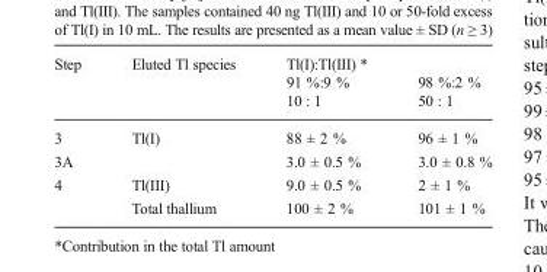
<table><thead><tr><td rowspan="3">Step</td><td rowspan="3">Eluted Tl species</td><td rowspan="3">Tl(I):Tl(III) * 91 %:9 % 10 : 1</td><td rowspan="3">98 %:2 % 50 : 1</td></tr><tr></tr><tr></tr></thead><tbody><tr><td>3</td><td>Tl(I)</td><td>88 ± 2 %</td><td>96 ± 1 %</td></tr><tr><td>3A</td><td></td><td>3.0 ± 0.5 %</td><td>3.0 ± 0.8 %</td></tr><tr><td rowspan="2">4</td><td>Tl(III)</td><td>9.0 ± 0.5 %</td><td>2 ± 1 %</td></tr><tr><td>Total thallium</td><td>100 ± 2 %</td><td>101 ± 1 %</td></tr></tbody></table>